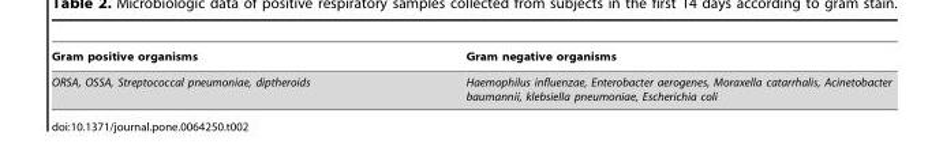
<table><thead><tr><td>Gram positive organisms</td><td>Gram negative organisms</td></tr></thead><tbody><tr><td>ORSA, OSSA, Streptococcal pneumoniae, diptheroids</td><td>Haemophilus influenzae, Enterobacter aerogenes, Moraxella catarrhalis, Acinetobacter baumannii, klebsiella pneumoniae, Escherichia coli</td></tr></tbody></table>